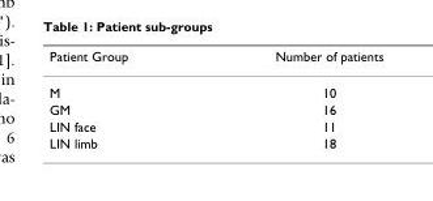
<table><thead><tr><td>Patient Group</td><td>Number of patients</td></tr></thead><tbody><tr><td>M</td><td>10</td></tr><tr><td>GM</td><td>16</td></tr><tr><td>LIN face</td><td>11</td></tr><tr><td>LIN limb</td><td>18</td></tr></tbody></table>